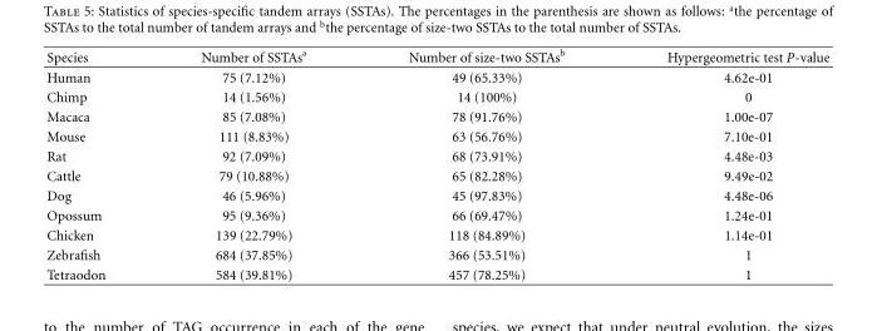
<table><thead><tr><td>Species</td><td>Number of SSTAs<sup>a</sup></td><td>Number of size-two SSTAs<sup>b</sup></td><td>Hypergeometric test P-value</td></tr></thead><tbody><tr><td>Human</td><td>75 (7.12%)</td><td>49 (65.33%)</td><td>4.62e-01</td></tr><tr><td>Chimp</td><td>14 (1.56%)</td><td>14 (100%)</td><td>0</td></tr><tr><td>Macaca</td><td>85 (7.08%)</td><td>78 (91.76%)</td><td>1.00e-07</td></tr><tr><td>Mouse</td><td>111 (8.83%)</td><td>63 (56.76%)</td><td>7.10e-01</td></tr><tr><td>Rat</td><td>92 (7.09%)</td><td>68 (73.91%)</td><td>4.48e-03</td></tr><tr><td>Cattle</td><td>79 (10.88%)</td><td>65 (82.28%)</td><td>9.49e-02</td></tr><tr><td>Dog</td><td>46 (5.96%)</td><td>45 (97.83%)</td><td>4.48e-06</td></tr><tr><td>Opossum</td><td>95 (9.36%)</td><td>66 (69.47%)</td><td>1.24e-01</td></tr><tr><td>Chicken</td><td>139 (22.79%)</td><td>118 (84.89%)</td><td>1.14e-01</td></tr><tr><td>Zebrafish</td><td>684 (37.85%)</td><td>366 (53.51%)</td><td>1</td></tr><tr><td>Tetraodon</td><td>584 (39.81%)</td><td>457 (78.25%)</td><td>1</td></tr></tbody></table>